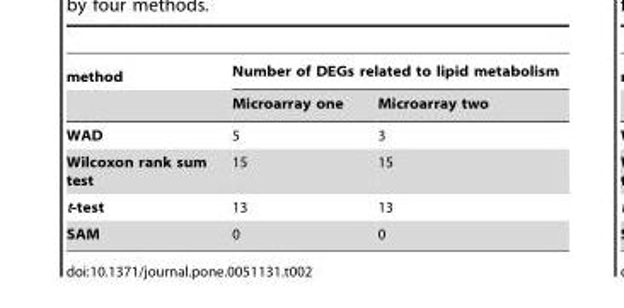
<table><thead><tr><td rowspan="2">method</td><td colspan="2">Number of DEGs related to lipid metabolism</td></tr><tr><td>Microarray one</td><td>Microarray two</td></tr></thead><tbody><tr><td>WAD</td><td>5</td><td>3</td></tr><tr><td>Wilcoxon rank sum test</td><td>15</td><td>15</td></tr><tr><td>t-test</td><td>13</td><td>13</td></tr><tr><td>SAM</td><td>0</td><td>0</td></tr></tbody></table>